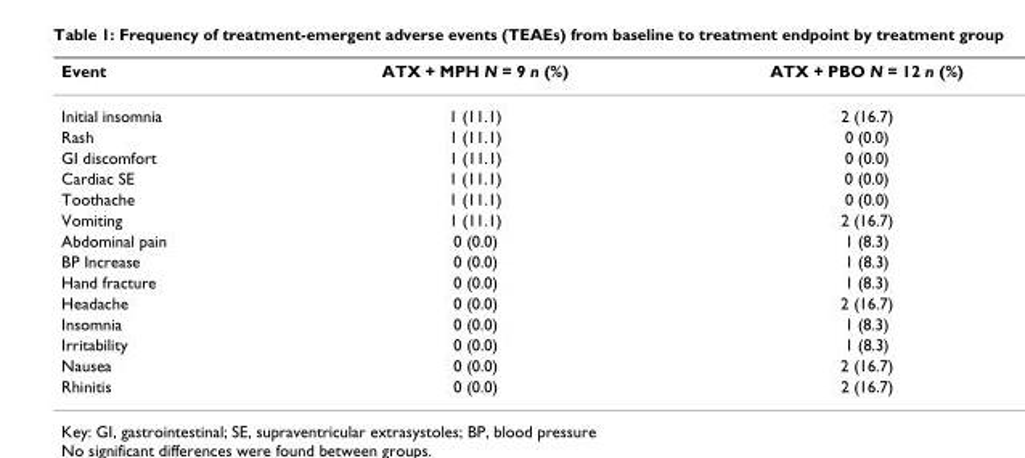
<table><thead><tr><td>Event</td><td>ATX + MPH N = 9 n (%)</td><td>ATX + PBO N = 12 n (%)</td></tr></thead><tbody><tr><td>Initial insomnia</td><td>1 (11.1)</td><td>2 (16.7)</td></tr><tr><td>Rash</td><td>1 (11.1)</td><td>0 (0.0)</td></tr><tr><td>GI discomfort</td><td>1 (11.1)</td><td>0 (0.0)</td></tr><tr><td>Cardiac SE</td><td>1 (11.1)</td><td>0 (0.0)</td></tr><tr><td>Toothache</td><td>1 (11.1)</td><td>0 (0.0)</td></tr><tr><td>Vomiting</td><td>1 (11.1)</td><td>2 (16.7)</td></tr><tr><td>Abdominal pain</td><td>0 (0.0)</td><td>1 (8.3)</td></tr><tr><td>BP Increase</td><td>0 (0.0)</td><td>1 (8.3)</td></tr><tr><td>Hand fracture</td><td>0 (0.0)</td><td>1 (8.3)</td></tr><tr><td>Headache</td><td>0 (0.0)</td><td>2 (16.7)</td></tr><tr><td>Insomnia</td><td>0 (0.0)</td><td>1 (8.3)</td></tr><tr><td>Irritability</td><td>0 (0.0)</td><td>1 (8.3)</td></tr><tr><td>Nausea</td><td>0 (0.0)</td><td>2 (16.7)</td></tr><tr><td>Rhinitis</td><td>0 (0.0)</td><td>2 (16.7)</td></tr></tbody></table>